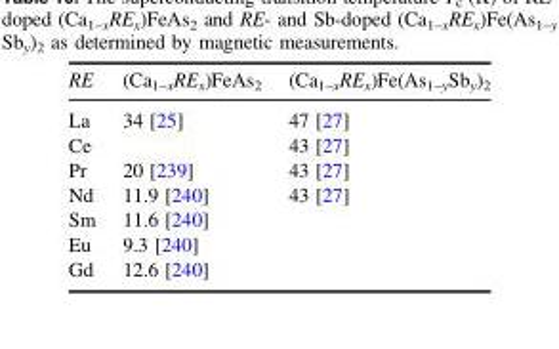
<table><thead><tr><td>RE</td><td>(Ca<sub>1–x</sub>RE<sub>x</sub>)FeAs<sub>2</sub></td><td>(Ca<sub>1–x</sub>RE<sub>x</sub>)Fe(As<sub>1–y</sub>Sb<sub>y</sub>)<sub>2</sub></td></tr></thead><tbody><tr><td>La</td><td>34 [25]</td><td>47 [27]</td></tr><tr><td>Ce</td><td></td><td>43 [27]</td></tr><tr><td>Pr</td><td>20 [239]</td><td>43 [27]</td></tr><tr><td>Nd</td><td>11.9 [240]</td><td>43 [27]</td></tr><tr><td>Sm</td><td>11.6 [240]</td><td></td></tr><tr><td>Eu</td><td>9.3 [240]</td><td></td></tr><tr><td>Gd</td><td>12.6 [240]</td><td></td></tr></tbody></table>